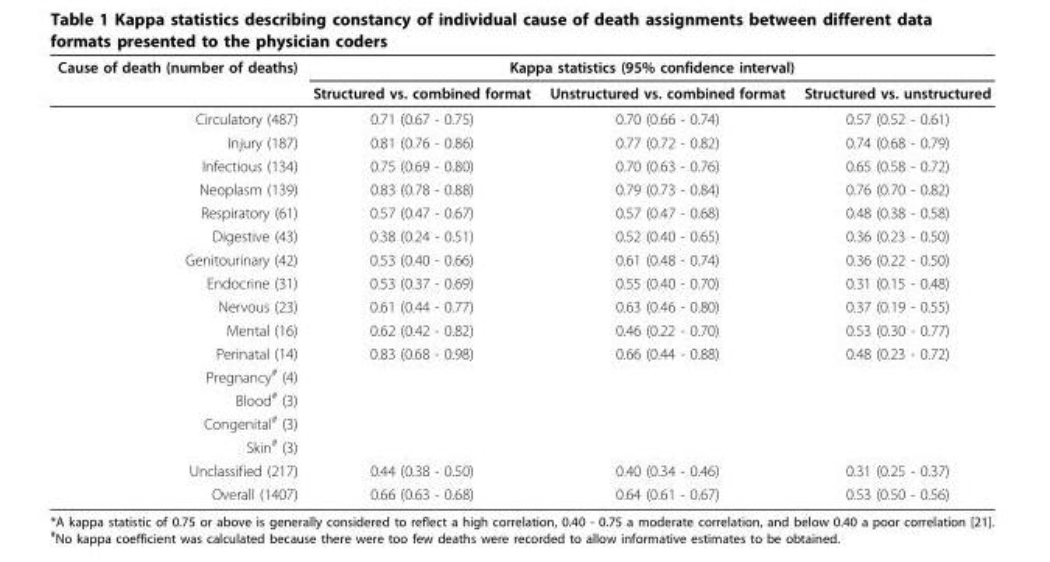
<table><thead><tr><td rowspan="2">Cause of death (number of deaths)</td><td colspan="3">Kappa statistics (95% confidence interval)</td></tr><tr><td>Structured vs. combined format</td><td>Unstructured vs. combined format</td><td>Structured vs. unstructured</td></tr></thead><tbody><tr><td>Circulatory (487)</td><td>0.71 (0.67 - 0.75)</td><td>0.70 (0.66 - 0.74)</td><td>0.57 (0.52 - 0.61)</td></tr><tr><td>Injury (187)</td><td>0.81 (0.76 - 0.86)</td><td>0.77 (0.72 - 0.82)</td><td>0.74 (0.68 - 0.79)</td></tr><tr><td>Infectious (134)</td><td>0.75 (0.69 - 0.80)</td><td>0.70 (0.63 - 0.76)</td><td>0.65 (0.58 - 0.72)</td></tr><tr><td>Neoplasm (139)</td><td>0.83 (0.78 - 0.88)</td><td>0.79 (0.73 - 0.84)</td><td>0.76 (0.70 - 0.82)</td></tr><tr><td>Respiratory (61)</td><td>0.57 (0.47 - 0.67)</td><td>0.57 (0.47 - 0.68)</td><td>0.48 (0.38 - 0.58)</td></tr><tr><td>Digestive (43)</td><td>0.38 (0.24 - 0.51)</td><td>0.52 (0.40 - 0.65)</td><td>0.36 (0.23 - 0.50)</td></tr><tr><td>Genitourinary (42)</td><td>0.53 (0.40 - 0.66)</td><td>0.61 (0.48 - 0.74)</td><td>0.36 (0.22 - 0.50)</td></tr><tr><td>Endocrine (31)</td><td>0.53 (0.37 - 0.69)</td><td>0.55 (0.40 - 0.70)</td><td>0.31 (0.15 - 0.48)</td></tr><tr><td>Nervous (23)</td><td>0.61 (0.44 - 0.77)</td><td>0.63 (0.46 - 0.80)</td><td>0.37 (0.19 - 0.55)</td></tr><tr><td>Mental (16)</td><td>0.62 (0.42 - 0.82)</td><td>0.46 (0.22 - 0.70)</td><td>0.53 (0.30 - 0.77)</td></tr><tr><td>Perinatal (14)</td><td>0.83 (0.68 - 0.98)</td><td>0.66 (0.44 - 0.88)</td><td>0.48 (0.23 - 0.72)</td></tr><tr><td colspan="4">Pregnancy<sup>#</sup> (4)</td></tr><tr><td colspan="4">Blood<sup>#</sup> (3)</td></tr><tr><td colspan="4">Congenital<sup>#</sup> (3)</td></tr><tr><td colspan="4">Skin<sup>#</sup> (3)</td></tr><tr><td>Unclassified (217)</td><td>0.44 (0.38 - 0.50)</td><td>0.40 (0.34 - 0.46)</td><td>0.31 (0.25 - 0.37)</td></tr><tr><td>Overall (1407)</td><td>0.66 (0.63 - 0.68)</td><td>0.64 (0.61 - 0.67)</td><td>0.53 (0.50 - 0.56)</td></tr></tbody></table>